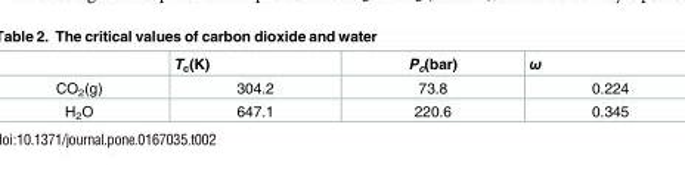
<table><thead><tr><td></td><td>T<sub>c</sub>(K)</td><td>P<sub>c</sub>(bar)</td><td>ω</td></tr></thead><tbody><tr><td>CO<sub>2</sub>(g)</td><td>304.2</td><td>73.8</td><td>0.224</td></tr><tr><td>H<sub>2</sub>O</td><td>647.1</td><td>220.6</td><td>0.345</td></tr></tbody></table>